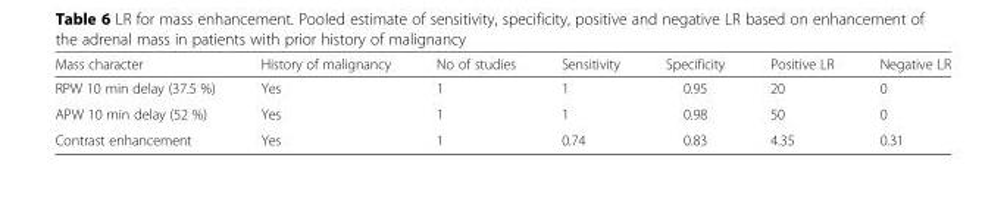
<table><thead><tr><td>Mass character</td><td>History of malignancy</td><td>No of studies</td><td>Sensitivity</td><td>Specificity</td><td>Positive LR</td><td>Negative LR</td></tr></thead><tbody><tr><td>RPW 10 min delay (37.5 %)</td><td>Yes</td><td>1</td><td>1</td><td>0.95</td><td>20</td><td>0</td></tr><tr><td>APW 10 min delay (52 %)</td><td>Yes</td><td>1</td><td>1</td><td>0.98</td><td>50</td><td>0</td></tr><tr><td>Contrast enhancement</td><td>Yes</td><td>1</td><td>0.74</td><td>0.83</td><td>4.35</td><td>0.31</td></tr></tbody></table>